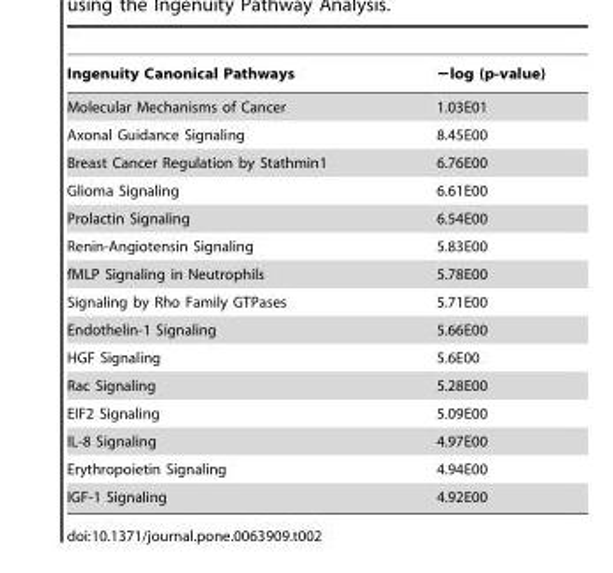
<table><thead><tr><td>Ingenuity Canonical Pathways</td><td>−log (p-value)</td></tr></thead><tbody><tr><td>Molecular Mechanisms of Cancer</td><td>1.03E01</td></tr><tr><td>Axonal Guidance Signaling</td><td>8.45E00</td></tr><tr><td>Breast Cancer Regulation by Stathmin1</td><td>6.76E00</td></tr><tr><td>Glioma Signaling</td><td>6.61E00</td></tr><tr><td>Prolactin Signaling</td><td>6.54E00</td></tr><tr><td>Renin-Angiotensin Signaling</td><td>5.83E00</td></tr><tr><td>fMLP Signaling in Neutrophils</td><td>5.78E00</td></tr><tr><td>Signaling by Rho Family GTPases</td><td>5.71E00</td></tr><tr><td>Endothelin-1 Signaling</td><td>5.66E00</td></tr><tr><td>HGF Signaling</td><td>5.6E00</td></tr><tr><td>Rac Signaling</td><td>5.28E00</td></tr><tr><td>EIF2 Signaling</td><td>5.09E00</td></tr><tr><td>IL-8 Signaling</td><td>4.97E00</td></tr><tr><td>Erythropoietin Signaling</td><td>4.94E00</td></tr><tr><td>IGF-1 Signaling</td><td>4.92E00</td></tr></tbody></table>